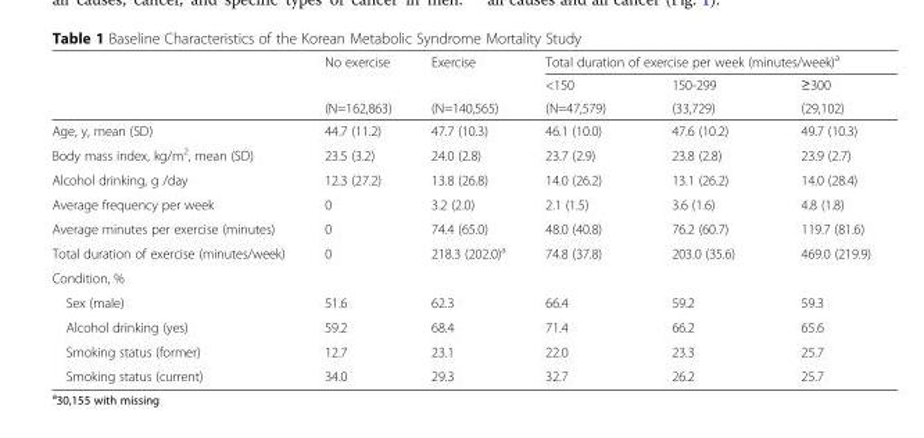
<table><thead><tr><td rowspan="3"></td><td rowspan="3">No exercise (N=162,863)</td><td rowspan="3">Exercise (N=140,565)</td><td colspan="3">Total duration of exercise per week (minutes/week)<sup>a</sup></td></tr><tr><td rowspan="2">&lt;150 (N=47,579)</td><td rowspan="2">150-299 (33,729)</td><td rowspan="2">≥300 (29,102)</td></tr><tr></tr></thead><tbody><tr><td>Age, y, mean (SD)</td><td>44.7 (11.2)</td><td>47.7 (10.3)</td><td>46.1 (10.0)</td><td>47.6 (10.2)</td><td>49.7 (10.3)</td></tr><tr><td>Body mass index, kg/m<sup>2</sup>, mean (SD)</td><td>23.5 (3.2)</td><td>24.0 (2.8)</td><td>23.7 (2.9)</td><td>23.8 (2.8)</td><td>23.9 (2.7)</td></tr><tr><td>Alcohol drinking, g /day</td><td>12.3 (27.2)</td><td>13.8 (26.8)</td><td>14.0 (26.2)</td><td>13.1 (26.2)</td><td>14.0 (28.4)</td></tr><tr><td>Average frequency per week</td><td>0</td><td>3.2 (2.0)</td><td>2.1 (1.5)</td><td>3.6 (1.6)</td><td>4.8 (1.8)</td></tr><tr><td>Average minutes per exercise (minutes)</td><td>0</td><td>74.4 (65.0)</td><td>48.0 (40.8)</td><td>76.2 (60.7)</td><td>119.7 (81.6)</td></tr><tr><td>Total duration of exercise (minutes/week)</td><td>0</td><td>218.3 (202.0)<sup>a</sup></td><td>74.8 (37.8)</td><td>203.0 (35.6)</td><td>469.0 (219.9)</td></tr><tr><td colspan="6">Condition, %</td></tr><tr><td>Sex (male)</td><td>51.6</td><td>62.3</td><td>66.4</td><td>59.2</td><td>59.3</td></tr><tr><td>Alcohol drinking (yes)</td><td>59.2</td><td>68.4</td><td>71.4</td><td>66.2</td><td>65.6</td></tr><tr><td>Smoking status (former)</td><td>12.7</td><td>23.1</td><td>22.0</td><td>23.3</td><td>25.7</td></tr><tr><td>Smoking status (current)</td><td>34.0</td><td>29.3</td><td>32.7</td><td>26.2</td><td>25.7</td></tr></tbody></table>